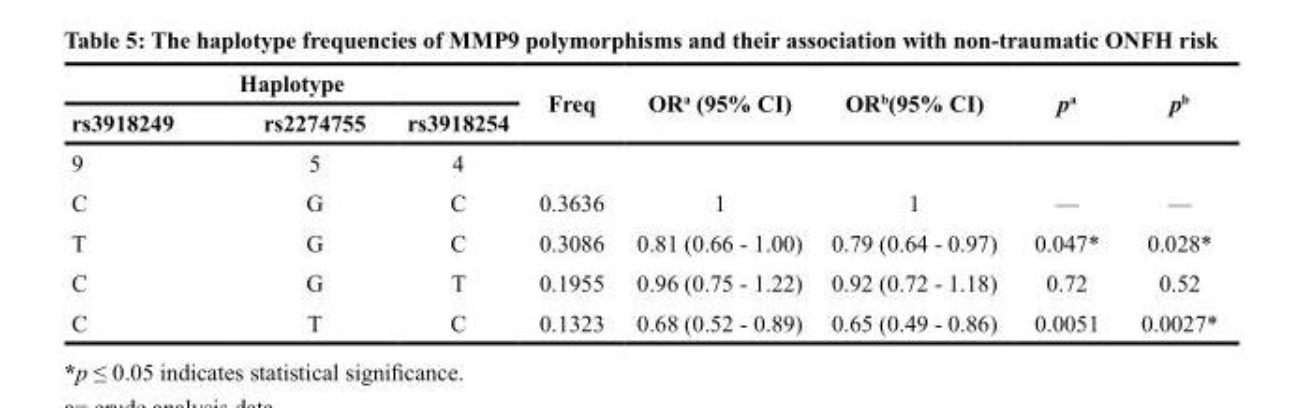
<table><thead><tr><td colspan="3">Haplotype</td><td rowspan="2">Freq</td><td rowspan="2">OR<sup>a</sup> (95% CI)</td><td rowspan="2">OR<sup>b</sup>(95% CI)</td><td rowspan="2">p<sup>a</sup></td><td rowspan="2">p<sup>b</sup></td></tr><tr><td>rs3918249</td><td>rs2274755</td><td>rs3918254</td></tr></thead><tbody><tr><td>9</td><td>5</td><td>4</td><td></td><td></td><td></td><td></td><td></td></tr><tr><td>C</td><td>G</td><td>C</td><td>0.3636</td><td>1</td><td>1</td><td>—</td><td>—</td></tr><tr><td>T</td><td>G</td><td>C</td><td>0.3086</td><td>0.81 (0.66 - 1.00)</td><td>0.79 (0.64 - 0.97)</td><td>0.047*</td><td>0.028*</td></tr><tr><td>C</td><td>G</td><td>T</td><td>0.1955</td><td>0.96 (0.75 - 1.22)</td><td>0.92 (0.72 - 1.18)</td><td>0.72</td><td>0.52</td></tr><tr><td>C</td><td>T</td><td>C</td><td>0.1323</td><td>0.68 (0.52 - 0.89)</td><td>0.65 (0.49 - 0.86)</td><td>0.0051</td><td>0.0027*</td></tr></tbody></table>